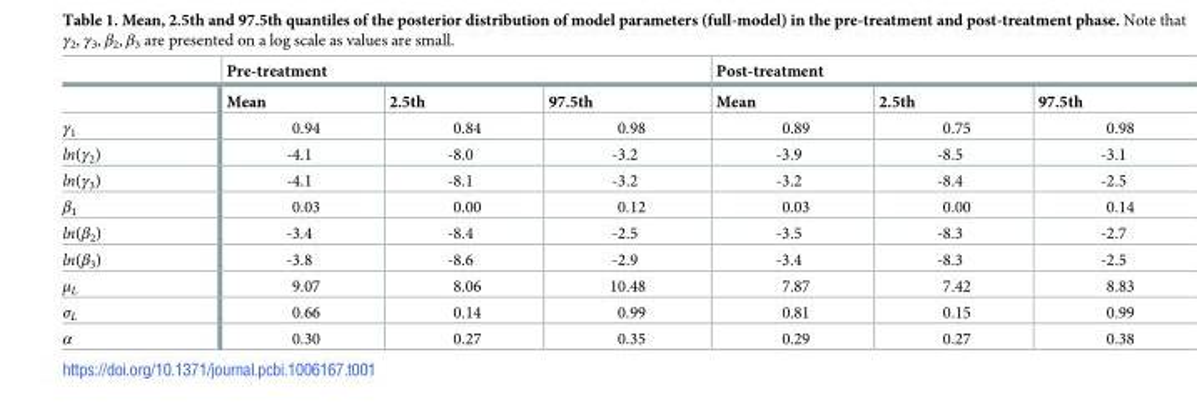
<table><thead><tr><td rowspan="2"></td><td colspan="3">Pre-treatment</td><td colspan="3">Post-treatment</td></tr><tr><td>Mean</td><td>2.5th</td><td>97.5th</td><td>Mean</td><td>2.5th</td><td>97.5th</td></tr></thead><tbody><tr><td>γ<sub>1</sub></td><td>0.94</td><td>0.84</td><td>0.98</td><td>0.89</td><td>0.75</td><td>0.98</td></tr><tr><td>ln(γ<sub>2</sub>)</td><td>-4.1</td><td>-8.0</td><td>-3.2</td><td>-3.9</td><td>-8.5</td><td>-3.1</td></tr><tr><td>ln(γ<sub>3</sub>)</td><td>-4.1</td><td>-8.1</td><td>-3.2</td><td>-3.2</td><td>-8.4</td><td>-2.5</td></tr><tr><td>β<sub>1</sub></td><td>0.03</td><td>0.00</td><td>0.12</td><td>0.03</td><td>0.00</td><td>0.14</td></tr><tr><td>ln(β<sub>2</sub>)</td><td>-3.4</td><td>-8.4</td><td>-2.5</td><td>-3.5</td><td>-8.3</td><td>-2.7</td></tr><tr><td>ln(β<sub>3</sub>)</td><td>-3.8</td><td>-8.6</td><td>-2.9</td><td>-3.4</td><td>-8.3</td><td>-2.5</td></tr><tr><td>μ<sub>L</sub></td><td>9.07</td><td>8.06</td><td>10.48</td><td>7.87</td><td>7.42</td><td>8.83</td></tr><tr><td>σ<sub>L</sub></td><td>0.66</td><td>0.14</td><td>0.99</td><td>0.81</td><td>0.15</td><td>0.99</td></tr><tr><td>α</td><td>0.30</td><td>0.27</td><td>0.35</td><td>0.29</td><td>0.27</td><td>0.38</td></tr></tbody></table>